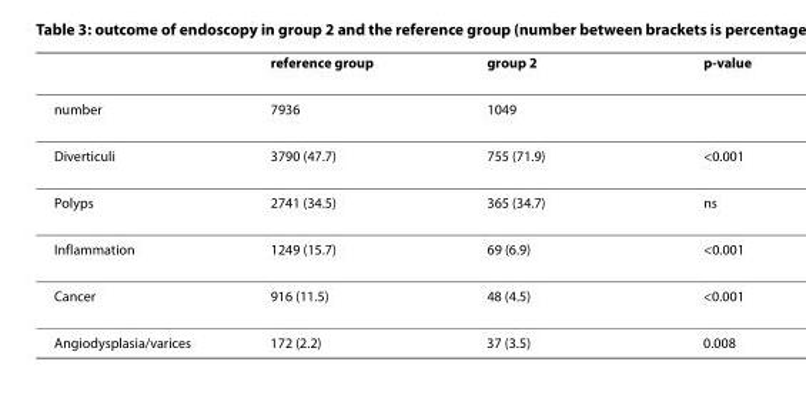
<table><thead><tr><td></td><td>reference group</td><td>group 2</td><td>p-value</td></tr></thead><tbody><tr><td>number</td><td>7936</td><td>1049</td><td></td></tr><tr><td>Diverticuli</td><td>3790 (47.7)</td><td>755 (71.9)</td><td>&lt;0.001</td></tr><tr><td>Polyps</td><td>2741 (34.5)</td><td>365 (34.7)</td><td>ns</td></tr><tr><td>Inflammation</td><td>1249 (15.7)</td><td>69 (6.9)</td><td>&lt;0.001</td></tr><tr><td>Cancer</td><td>916 (11.5)</td><td>48 (4.5)</td><td>&lt;0.001</td></tr><tr><td>Angiodysplasia/varices</td><td>172 (2.2)</td><td>37 (3.5)</td><td>0.008</td></tr></tbody></table>